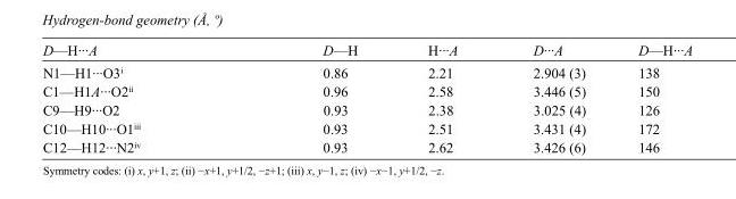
<table><tbody><tr><td>D—H···A</td><td>D—H</td><td>H···A</td><td>D···A</td><td>D—H···A</td></tr><tr><td>N1—H1···O3<sup>i</sup></td><td>0.86</td><td>2.21</td><td>2.904 (3)</td><td>138</td></tr><tr><td>C1—H1A···O2<sup>ii</sup></td><td>0.96</td><td>2.58</td><td>3.446 (5)</td><td>150</td></tr><tr><td>C9—H9···O2</td><td>0.93</td><td>2.38</td><td>3.025 (4)</td><td>126</td></tr><tr><td>C10—H10···O1<sup>iii</sup></td><td>0.93</td><td>2.51</td><td>3.431 (4)</td><td>172</td></tr><tr><td>C12—H12···N2<sup>iv</sup></td><td>0.93</td><td>2.62</td><td>3.426 (6)</td><td>146</td></tr></tbody></table>